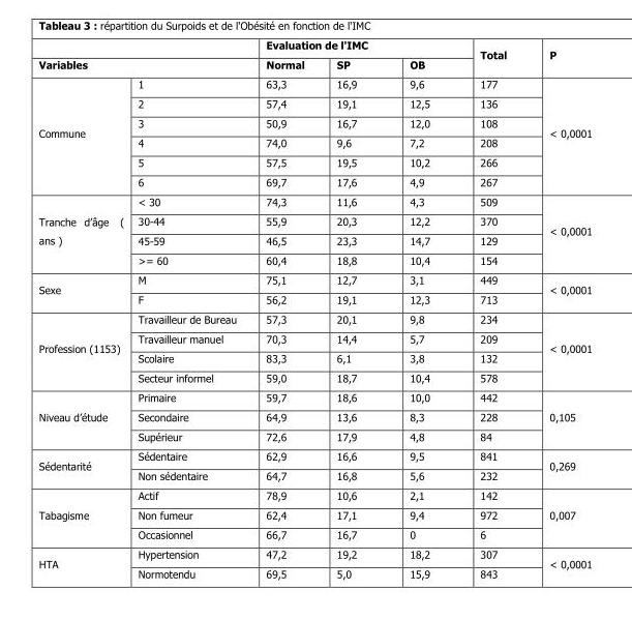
<table><thead><tr><td></td><td></td><td colspan="3">Evaluation de l&#x27;IMC</td><td rowspan="2">Total</td><td rowspan="2">P</td></tr><tr><td colspan="2">Variables</td><td>Normal</td><td>SP</td><td>OB</td></tr></thead><tbody><tr><td rowspan="6">Commune</td><td>1</td><td>63,3</td><td>16,9</td><td>9,6</td><td>177</td><td rowspan="6">&lt; 0,0001</td></tr><tr><td>2</td><td>57,4</td><td>19,1</td><td>12,5</td><td>136</td></tr><tr><td>3</td><td>50,9</td><td>16,7</td><td>12,0</td><td>108</td></tr><tr><td>4</td><td>74,0</td><td>9,6</td><td>7,2</td><td>208</td></tr><tr><td>5</td><td>57,5</td><td>19,5</td><td>10,2</td><td>266</td></tr><tr><td>6</td><td>69,7</td><td>17,6</td><td>4,9</td><td>267</td></tr><tr><td rowspan="4">Tranche d’âge ( ans )</td><td>&lt; 30</td><td>74,3</td><td>11,6</td><td>4,3</td><td>509</td><td rowspan="4">&lt; 0,0001</td></tr><tr><td>30-44</td><td>55,9</td><td>20,3</td><td>12,2</td><td>370</td></tr><tr><td>45-59</td><td>46,5</td><td>23,3</td><td>14,7</td><td>129</td></tr><tr><td>&gt;= 60</td><td>60,4</td><td>18,8</td><td>10,4</td><td>154</td></tr><tr><td rowspan="2">Sexe</td><td>M</td><td>75,1</td><td>12,7</td><td>3,1</td><td>449</td><td rowspan="2">&lt; 0,0001</td></tr><tr><td>F</td><td>56,2</td><td>19,1</td><td>12,3</td><td>713</td></tr><tr><td rowspan="4">Profession (1153)</td><td>Travailleur de Bureau</td><td>57,3</td><td>20,1</td><td>9,8</td><td>234</td><td rowspan="4">&lt; 0,0001</td></tr><tr><td>Travailleur manuel</td><td>70,3</td><td>14,4</td><td>5,7</td><td>209</td></tr><tr><td>Scolaire</td><td>83,3</td><td>6,1</td><td>3,8</td><td>132</td></tr><tr><td>Secteur informel</td><td>59,0</td><td>18,7</td><td>10,4</td><td>578</td></tr><tr><td rowspan="3">Niveau d’étude</td><td>Primaire</td><td>59,7</td><td>18,6</td><td>10,0</td><td>442</td><td rowspan="3">0,105</td></tr><tr><td>Secondaire</td><td>64,9</td><td>13,6</td><td>8,3</td><td>228</td></tr><tr><td>Supérieur</td><td>72,6</td><td>17,9</td><td>4,8</td><td>84</td></tr><tr><td rowspan="2">Sédentarité</td><td>Sédentaire</td><td>62,9</td><td>16,6</td><td>9,5</td><td>841</td><td rowspan="2">0,269</td></tr><tr><td>Non sédentaire</td><td>64,7</td><td>16,8</td><td>5,6</td><td>232</td></tr><tr><td rowspan="3">Tabagisme</td><td>Actif</td><td>78,9</td><td>10,6</td><td>2,1</td><td>142</td><td rowspan="3">0,007</td></tr><tr><td>Non fumeur</td><td>62,4</td><td>17,1</td><td>9,4</td><td>972</td></tr><tr><td>Occasionnel</td><td>66,7</td><td>16,7</td><td>0</td><td>6</td></tr><tr><td rowspan="2">HTA</td><td>Hypertension</td><td>47,2</td><td>19,2</td><td>18,2</td><td>307</td><td rowspan="2">&lt; 0,0001</td></tr><tr><td>Normotendu</td><td>69,5</td><td>5,0</td><td>15,9</td><td>843</td></tr></tbody></table>